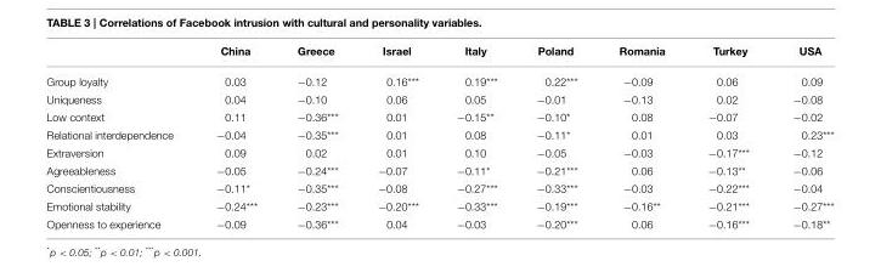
<table><thead><tr><td></td><td>China</td><td>Greece</td><td>Israel</td><td>Italy</td><td>Poland</td><td>Romania</td><td>Turkey</td><td>USA</td></tr></thead><tbody><tr><td>Group loyalty</td><td>0.03</td><td>−0.12</td><td>0.16***</td><td>0.19***</td><td>0.22***</td><td>−0.09</td><td>0.06</td><td>0.09</td></tr><tr><td>Uniqueness</td><td>0.04</td><td>−0.10</td><td>0.06</td><td>0.05</td><td>−0.01</td><td>−0.13</td><td>0.02</td><td>−0.08</td></tr><tr><td>Low context</td><td>0.11</td><td>−0.36***</td><td>0.01</td><td>−0.15**</td><td>−0.10*</td><td>0.08</td><td>−0.07</td><td>−0.02</td></tr><tr><td>Relational interdependence</td><td>−0.04</td><td>−0.35***</td><td>0.01</td><td>0.08</td><td>−0.11*</td><td>0.01</td><td>0.03</td><td>0.23***</td></tr><tr><td>Extraversion</td><td>0.09</td><td>0.02</td><td>0.01</td><td>0.10</td><td>−0.05</td><td>−0.03</td><td>−0.17***</td><td>−0.12</td></tr><tr><td>Agreeableness</td><td>−0.05</td><td>−0.24***</td><td>−0.07</td><td>−0.11*</td><td>−0.21***</td><td>0.06</td><td>−0.13**</td><td>−0.06</td></tr><tr><td>Conscientiousness</td><td>−0.11*</td><td>−0.35***</td><td>−0.08</td><td>−0.27***</td><td>−0.33***</td><td>−0.03</td><td>−0.22***</td><td>−0.04</td></tr><tr><td>Emotional stability</td><td>−0.24***</td><td>−0.23***</td><td>−0.20***</td><td>−0.33***</td><td>−0.19***</td><td>−0.16**</td><td>−0.21***</td><td>−0.27***</td></tr><tr><td>Openness to experience</td><td>−0.09</td><td>−0.36***</td><td>0.04</td><td>−0.03</td><td>−0.20***</td><td>0.06</td><td>−0.16***</td><td>−0.18**</td></tr></tbody></table>